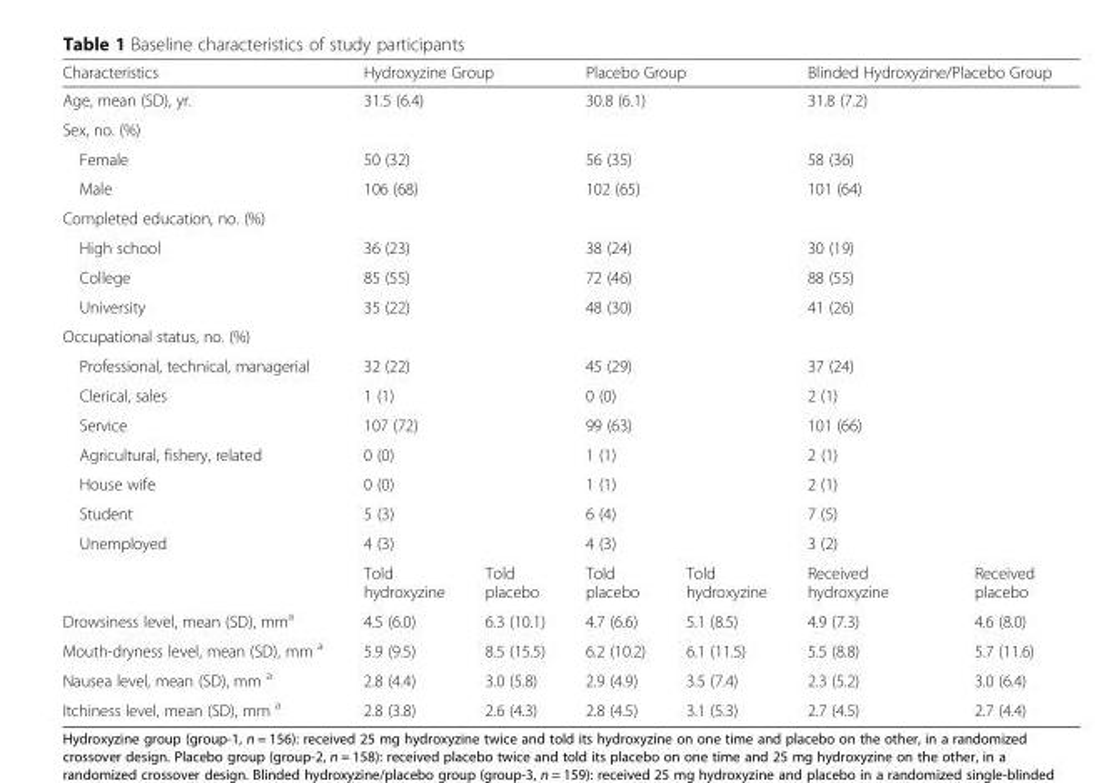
<table><thead><tr><td>Characteristics</td><td colspan="2">Hydroxyzine Group</td><td colspan="2">Placebo Group</td><td colspan="2">Blinded Hydroxyzine/Placebo Group</td></tr></thead><tbody><tr><td>Age, mean (SD), yr.</td><td colspan="2">31.5 (6.4)</td><td colspan="2">30.8 (6.1)</td><td colspan="2">31.8 (7.2)</td></tr><tr><td colspan="7">Sex, no. (%)</td></tr><tr><td>Female</td><td colspan="2">50 (32)</td><td colspan="2">56 (35)</td><td colspan="2">58 (36)</td></tr><tr><td>Male</td><td colspan="2">106 (68)</td><td colspan="2">102 (65)</td><td colspan="2">101 (64)</td></tr><tr><td colspan="7">Completed education, no. (%)</td></tr><tr><td>High school</td><td colspan="2">36 (23)</td><td colspan="2">38 (24)</td><td colspan="2">30 (19)</td></tr><tr><td>College</td><td colspan="2">85 (55)</td><td colspan="2">72 (46)</td><td colspan="2">88 (55)</td></tr><tr><td>University</td><td colspan="2">35 (22)</td><td colspan="2">48 (30)</td><td colspan="2">41 (26)</td></tr><tr><td colspan="7">Occupational status, no. (%)</td></tr><tr><td>Professional, technical, managerial</td><td colspan="2">32 (22)</td><td colspan="2">45 (29)</td><td colspan="2">37 (24)</td></tr><tr><td>Clerical, sales</td><td colspan="2">1 (1)</td><td colspan="2">0 (0)</td><td colspan="2">2 (1)</td></tr><tr><td>Service</td><td colspan="2">107 (72)</td><td colspan="2">99 (63)</td><td colspan="2">101 (66)</td></tr><tr><td>Agricultural, fishery, related</td><td colspan="2">0 (0)</td><td colspan="2">1 (1)</td><td colspan="2">2 (1)</td></tr><tr><td>House wife</td><td colspan="2">0 (0)</td><td colspan="2">1 (1)</td><td colspan="2">2 (1)</td></tr><tr><td>Student</td><td colspan="2">5 (3)</td><td colspan="2">6 (4)</td><td colspan="2">7 (5)</td></tr><tr><td rowspan="2">Unemployed</td><td colspan="2">4 (3)</td><td colspan="2">4 (3)</td><td colspan="2">3 (2)</td></tr><tr><td>Told hydroxyzine</td><td>Told placebo</td><td>Told placebo</td><td>Told hydroxyzine</td><td>Received hydroxyzine</td><td>Received placebo</td></tr><tr><td>Drowsiness level, mean (SD), mm<sup>a</sup></td><td>4.5 (6.0)</td><td>6.3 (10.1)</td><td>4.7 (6.6)</td><td>5.1 (8.5)</td><td>4.9 (7.3)</td><td>4.6 (8.0)</td></tr><tr><td>Mouth-dryness level, mean (SD), mm <sup>a</sup></td><td>5.9 (9.5)</td><td>8.5 (15.5)</td><td>6.2 (10.2)</td><td>6.1 (11.5)</td><td>5.5 (8.8)</td><td>5.7 (11.6)</td></tr><tr><td>Nausea level, mean (SD), mm <sup>a</sup></td><td>2.8 (4.4)</td><td>3.0 (5.8)</td><td>2.9 (4.9)</td><td>3.5 (7.4)</td><td>2.3 (5.2)</td><td>3.0 (6.4)</td></tr><tr><td>Itchiness level, mean (SD), mm <sup>a</sup></td><td>2.8 (3.8)</td><td>2.6 (4.3)</td><td>2.8 (4.5)</td><td>3.1 (5.3)</td><td>2.7 (4.5)</td><td>2.7 (4.4)</td></tr></tbody></table>